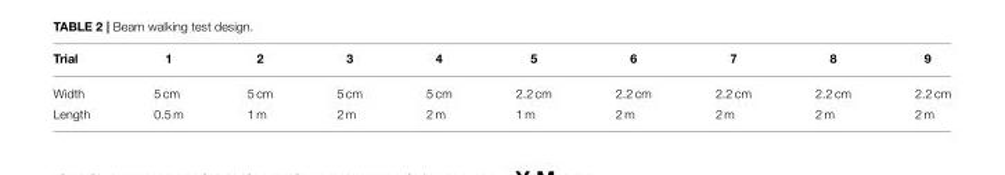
<table><thead><tr><td>Trial</td><td>1</td><td>2</td><td>3</td><td>4</td><td>5</td><td>6</td><td>7</td><td>8</td><td>9</td></tr></thead><tbody><tr><td>Width</td><td>5 cm</td><td>5 cm</td><td>5 cm</td><td>5 cm</td><td>2.2 cm</td><td>2.2 cm</td><td>2.2 cm</td><td>2.2 cm</td><td>2.2 cm</td></tr><tr><td>Length</td><td>0.5 m</td><td>1 m</td><td>2 m</td><td>2 m</td><td>1 m</td><td>2 m</td><td>2 m</td><td>2 m</td><td>2 m</td></tr></tbody></table>